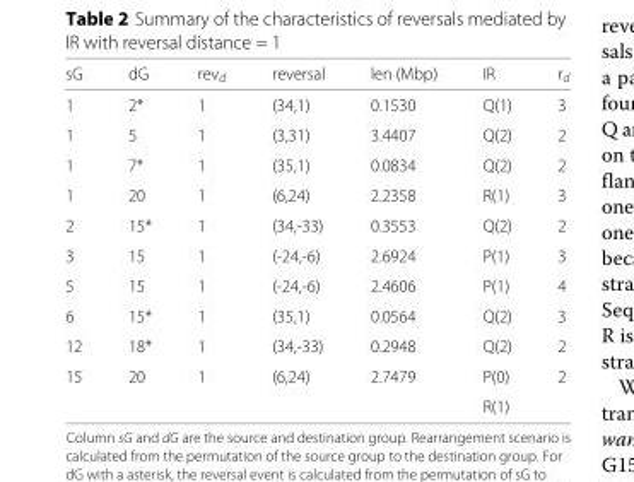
<table><thead><tr><td>sG</td><td>dG</td><td>rev<sub>d</sub></td><td>reversal</td><td>len (Mbp)</td><td>IR</td><td>r<sub>d</sub></td></tr></thead><tbody><tr><td>1</td><td>2*</td><td>1</td><td>(34,1)</td><td>0.1530</td><td>Q(1)</td><td>3</td></tr><tr><td>1</td><td>5</td><td>1</td><td>(3,31)</td><td>3.4407</td><td>Q(2)</td><td>2</td></tr><tr><td>1</td><td>7*</td><td>1</td><td>(35,1)</td><td>0.0834</td><td>Q(2)</td><td>2</td></tr><tr><td>1</td><td>20</td><td>1</td><td>(6,24)</td><td>2.2358</td><td>R(1)</td><td>3</td></tr><tr><td>2</td><td>15*</td><td>1</td><td>(34,-33)</td><td>0.3553</td><td>Q(2)</td><td>2</td></tr><tr><td>3</td><td>15</td><td>1</td><td>(-24,-6)</td><td>2.6924</td><td>P(1)</td><td>3</td></tr><tr><td>5</td><td>15</td><td>1</td><td>(-24,-6)</td><td>2.4606</td><td>P(1)</td><td>4</td></tr><tr><td>6</td><td>15*</td><td>1</td><td>(35,1)</td><td>0.0564</td><td>Q(2)</td><td>3</td></tr><tr><td>12</td><td>18*</td><td>1</td><td>(34,-33)</td><td>0.2948</td><td>Q(2)</td><td>2</td></tr><tr><td rowspan="2">15</td><td>20</td><td>1</td><td>(6,24)</td><td>2.7479</td><td>P(0)</td><td>2</td></tr><tr><td></td><td></td><td></td><td></td><td>R(1)</td><td></td></tr></tbody></table>